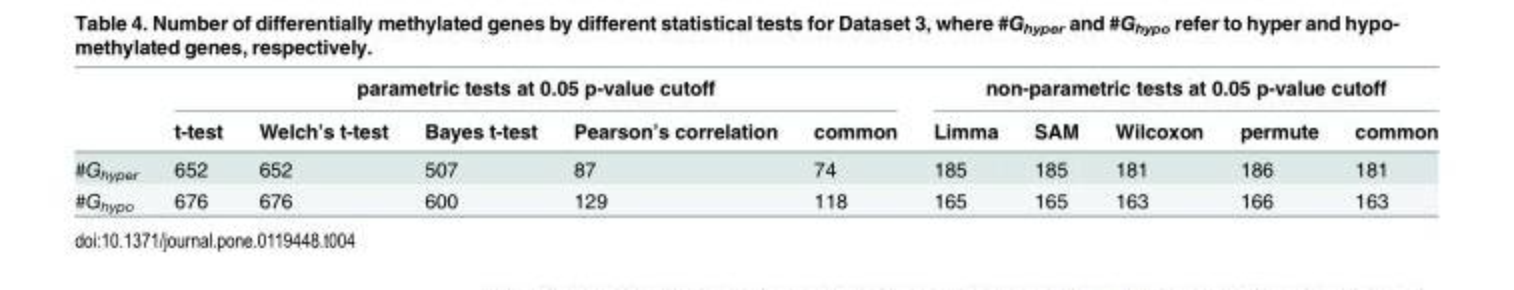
<table><thead><tr><td rowspan="2"></td><td colspan="5">parametric tests at 0.05 p-value cutoff</td><td colspan="5">non-parametric tests at 0.05 p-value cutoff</td></tr><tr><td>t-test</td><td>Welch’s t-test</td><td>Bayes t-test</td><td>Pearson’s correlation</td><td>common</td><td>Limma</td><td>SAM</td><td>Wilcoxon</td><td>permute</td><td>common</td></tr></thead><tbody><tr><td>#G<sub>hyper</sub></td><td>652</td><td>652</td><td>507</td><td>87</td><td>74</td><td>185</td><td>185</td><td>181</td><td>186</td><td>181</td></tr><tr><td>#G<sub>hypo</sub></td><td>676</td><td>676</td><td>600</td><td>129</td><td>118</td><td>165</td><td>165</td><td>163</td><td>166</td><td>163</td></tr></tbody></table>